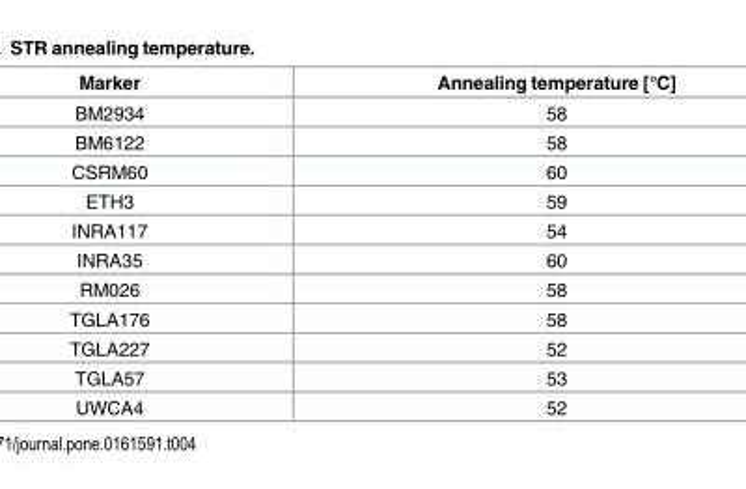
<table><thead><tr><td>Marker</td><td>Annealing temperature [°C]</td></tr></thead><tbody><tr><td>BM2934</td><td>58</td></tr><tr><td>BM6122</td><td>58</td></tr><tr><td>CSRM60</td><td>60</td></tr><tr><td>ETH3</td><td>59</td></tr><tr><td>INRA117</td><td>54</td></tr><tr><td>INRA35</td><td>60</td></tr><tr><td>RM026</td><td>58</td></tr><tr><td>TGLA176</td><td>58</td></tr><tr><td>TGLA227</td><td>52</td></tr><tr><td>TGLA57</td><td>53</td></tr><tr><td>UWCA4</td><td>52</td></tr></tbody></table>